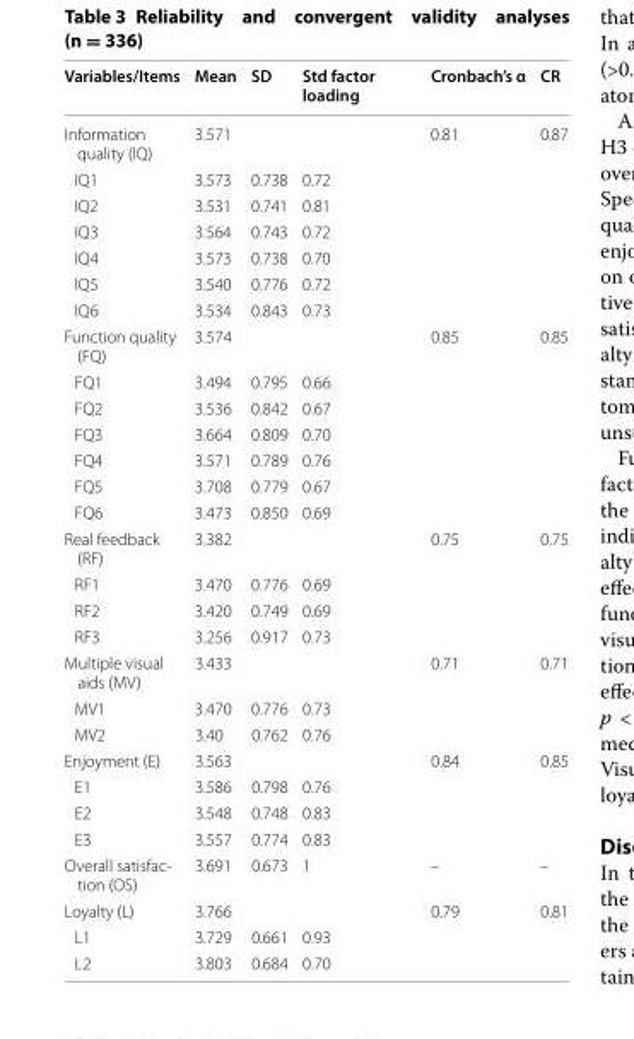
<table><thead><tr><td>Variables/Items</td><td>Mean</td><td>SD</td><td>Std factor loading</td><td>Cronbach’s α</td><td>CR</td></tr></thead><tbody><tr><td>Information quality (IQ)</td><td>3.571</td><td></td><td></td><td>0.81</td><td>0.87</td></tr><tr><td>IQ1</td><td>3.573</td><td>0.738</td><td>0.72</td><td></td><td></td></tr><tr><td>IQ2</td><td>3.531</td><td>0.741</td><td>0.81</td><td></td><td></td></tr><tr><td>IQ3</td><td>3.564</td><td>0.743</td><td>0.72</td><td></td><td></td></tr><tr><td>IQ4</td><td>3.573</td><td>0.738</td><td>0.70</td><td></td><td></td></tr><tr><td>IQ5</td><td>3.540</td><td>0.776</td><td>0.72</td><td></td><td></td></tr><tr><td>IQ6</td><td>3.534</td><td>0.843</td><td>0.73</td><td></td><td></td></tr><tr><td>Function quality (FQ)</td><td>3.574</td><td></td><td></td><td>0.85</td><td>0.85</td></tr><tr><td>FQ1</td><td>3.494</td><td>0.795</td><td>0.66</td><td></td><td></td></tr><tr><td>FQ2</td><td>3.536</td><td>0.842</td><td>0.67</td><td></td><td></td></tr><tr><td>FQ3</td><td>3.664</td><td>0.809</td><td>0.70</td><td></td><td></td></tr><tr><td>FQ4</td><td>3.571</td><td>0.789</td><td>0.76</td><td></td><td></td></tr><tr><td>FQ5</td><td>3.708</td><td>0.779</td><td>0.67</td><td></td><td></td></tr><tr><td>FQ6</td><td>3.473</td><td>0.850</td><td>0.69</td><td></td><td></td></tr><tr><td>Real feedback (RF)</td><td>3.382</td><td></td><td></td><td>0.75</td><td>0.75</td></tr><tr><td>RF1</td><td>3.470</td><td>0.776</td><td>0.69</td><td></td><td></td></tr><tr><td>RF2</td><td>3.420</td><td>0.749</td><td>0.69</td><td></td><td></td></tr><tr><td>RF3</td><td>3.256</td><td>0.917</td><td>0.73</td><td></td><td></td></tr><tr><td>Multiple visual aids (MV)</td><td>3.433</td><td></td><td></td><td>0.71</td><td>0.71</td></tr><tr><td>MV1</td><td>3.470</td><td>0.776</td><td>0.73</td><td></td><td></td></tr><tr><td>MV2</td><td>3.40</td><td>0.762</td><td>0.76</td><td></td><td></td></tr><tr><td>Enjoyment (E)</td><td>3.563</td><td></td><td></td><td>0.84</td><td>0.85</td></tr><tr><td>E1</td><td>3.586</td><td>0.798</td><td>0.76</td><td></td><td></td></tr><tr><td>E2</td><td>3.548</td><td>0.748</td><td>0.83</td><td></td><td></td></tr><tr><td>E3</td><td>3.557</td><td>0.774</td><td>0.83</td><td></td><td></td></tr><tr><td>Overall satisfac‑ tion (OS)</td><td>3.691</td><td>0.673</td><td>1</td><td>–</td><td>–</td></tr><tr><td>Loyalty (L)</td><td>3.766</td><td></td><td></td><td>0.79</td><td>0.81</td></tr><tr><td>L1</td><td>3.729</td><td>0.661</td><td>0.93</td><td></td><td></td></tr><tr><td>L2</td><td>3.803</td><td>0.684</td><td>0.70</td><td></td><td></td></tr></tbody></table>